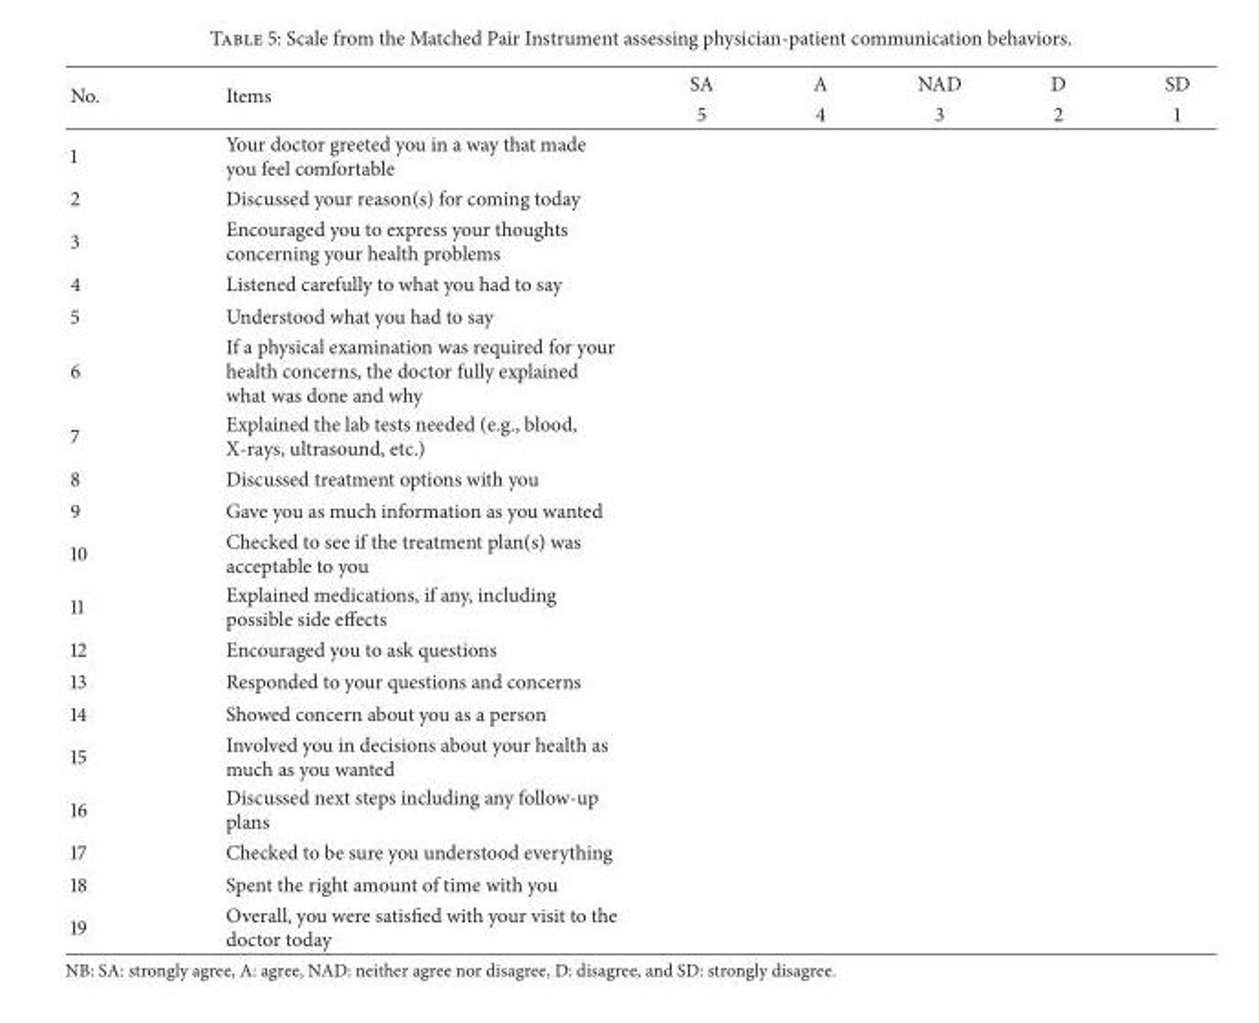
<table><thead><tr><td rowspan="2">No.</td><td rowspan="2">Items</td><td rowspan="2">SA 5</td><td rowspan="2">A 4</td><td rowspan="2">NAD 3</td><td rowspan="2">D 2</td><td rowspan="2">SD 1</td></tr><tr></tr></thead><tbody><tr><td>1</td><td>Your doctor greeted you in a way that made you feel comfortable</td><td></td><td></td><td></td><td></td><td></td></tr><tr><td>2</td><td>Discussed your reason(s) for coming today</td><td></td><td></td><td></td><td></td><td></td></tr><tr><td>3</td><td>Encouraged you to express your thoughts concerning your health problems</td><td></td><td></td><td></td><td></td><td></td></tr><tr><td>4</td><td>Listened carefully to what you had to say</td><td></td><td></td><td></td><td></td><td></td></tr><tr><td>5</td><td>Understood what you had to say</td><td></td><td></td><td></td><td></td><td></td></tr><tr><td>6</td><td>If a physical examination was required for your health concerns, the doctor fully explained what was done and why</td><td></td><td></td><td></td><td></td><td></td></tr><tr><td>7</td><td>Explained the lab tests needed (e.g., blood, X-rays, ultrasound, etc.)</td><td></td><td></td><td></td><td></td><td></td></tr><tr><td>8</td><td>Discussed treatment options with you</td><td></td><td></td><td></td><td></td><td></td></tr><tr><td>9</td><td>Gave you as much information as you wanted</td><td></td><td></td><td></td><td></td><td></td></tr><tr><td>10</td><td>Checked to see if the treatment plan(s) was acceptable to you</td><td></td><td></td><td></td><td></td><td></td></tr><tr><td>11</td><td>Explained medications, if any, including possible side effects</td><td></td><td></td><td></td><td></td><td></td></tr><tr><td>12</td><td>Encouraged you to ask questions</td><td></td><td></td><td></td><td></td><td></td></tr><tr><td>13</td><td>Responded to your questions and concerns</td><td></td><td></td><td></td><td></td><td></td></tr><tr><td>14</td><td>Showed concern about you as a person</td><td></td><td></td><td></td><td></td><td></td></tr><tr><td>15</td><td>Involved you in decisions about your health as much as you wanted</td><td></td><td></td><td></td><td></td><td></td></tr><tr><td>16</td><td>Discussed next steps including any follow-up plans</td><td></td><td></td><td></td><td></td><td></td></tr><tr><td>17</td><td>Checked to be sure you understood everything</td><td></td><td></td><td></td><td></td><td></td></tr><tr><td>18</td><td>Spent the right amount of time with you</td><td></td><td></td><td></td><td></td><td></td></tr><tr><td>19</td><td>Overall, you were satisfied with your visit to the doctor today</td><td></td><td></td><td></td><td></td><td></td></tr></tbody></table>